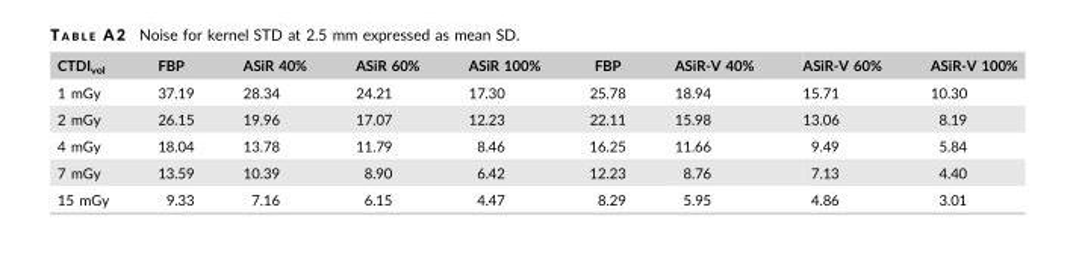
<table><thead><tr><td>CTDI<sub>vol</sub></td><td>FBP</td><td>ASiR 40%</td><td>ASiR 60%</td><td>ASiR 100%</td><td>FBP</td><td>ASiR-V 40%</td><td>ASiR-V 60%</td><td>ASiR-V 100%</td></tr></thead><tbody><tr><td>1 mGy</td><td>37.19</td><td>28.34</td><td>24.21</td><td>17.30</td><td>25.78</td><td>18.94</td><td>15.71</td><td>10.30</td></tr><tr><td>2 mGy</td><td>26.15</td><td>19.96</td><td>17.07</td><td>12.23</td><td>22.11</td><td>15.98</td><td>13.06</td><td>8.19</td></tr><tr><td>4 mGy</td><td>18.04</td><td>13.78</td><td>11.79</td><td>8.46</td><td>16.25</td><td>11.66</td><td>9.49</td><td>5.84</td></tr><tr><td>7 mGy</td><td>13.59</td><td>10.39</td><td>8.90</td><td>6.42</td><td>12.23</td><td>8.76</td><td>7.13</td><td>4.40</td></tr><tr><td>15 mGy</td><td>9.33</td><td>7.16</td><td>6.15</td><td>4.47</td><td>8.29</td><td>5.95</td><td>4.86</td><td>3.01</td></tr></tbody></table>